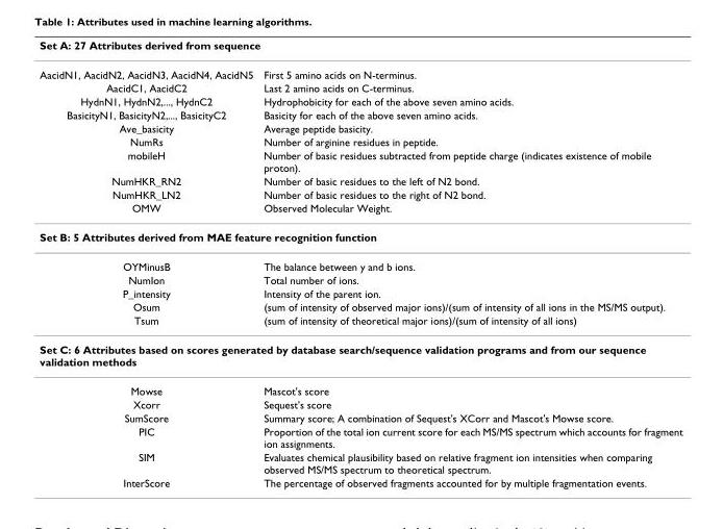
<table><thead><tr><td colspan="2">Set A: 27 Attributes derived from sequence</td></tr><tr><td>AacidN1, AacidN2, AacidN3, AacidN4, AacidN5</td><td>First 5 amino acids on N-terminus.</td></tr></thead><tbody><tr><td>AacidC1, AacidC2</td><td>Last 2 amino acids on C-terminus.</td></tr><tr><td>HydnN1, HydnN2,..., HydnC2</td><td>Hydrophobicity for each of the above seven amino acids.</td></tr><tr><td>BasicityN1, BasicityN2,..., BasicityC2</td><td>Basicity for each of the above seven amino acids.</td></tr><tr><td>Ave_basicity</td><td>Average peptide basicity.</td></tr><tr><td>NumRs</td><td>Number of arginine residues in peptide.</td></tr><tr><td>mobileH</td><td>Number of basic residues subtracted from peptide charge (indicates existence of mobile proton).</td></tr><tr><td>NumHKR_RN2</td><td>Number of basic residues to the left of N2 bond.</td></tr><tr><td>NumHKR_LN2</td><td>Number of basic residues to the right of N2 bond.</td></tr><tr><td>OMW</td><td>Observed Molecular Weight.</td></tr><tr><td colspan="2">Set B: 5 Attributes derived from MAE feature recognition function</td></tr><tr><td>OYMinusB</td><td>The balance between y and b ions.</td></tr><tr><td>NumIon</td><td>Total number of ions.</td></tr><tr><td>P_intensity</td><td>Intensity of the parent ion.</td></tr><tr><td>Osum</td><td>(sum of intensity of observed major ions)/(sum of intensity of all ions in the MS/MS output).</td></tr><tr><td>Tsum</td><td>(sum of intensity of theoretical major ions)/(sum of intensity of all ions)</td></tr><tr><td colspan="2">Set C: 6 Attributes based on scores generated by database search/sequence validation programs and from our sequence validation methods</td></tr><tr><td>Mowse</td><td>Mascot&#x27;s score</td></tr><tr><td>Xcorr</td><td>Sequest&#x27;s score</td></tr><tr><td>SumScore</td><td>Summary score; A combination of Sequest&#x27;s XCorr and Mascot&#x27;s Mowse score.</td></tr><tr><td>PIC</td><td>Proportion of the total ion current score for each MS/MS spectrum which accounts for fragment ion assignments.</td></tr><tr><td>SIM</td><td>Evaluates chemical plausibility based on relative fragment ion intensities when comparing observed MS/MS spectrum to theoretical spectrum.</td></tr><tr><td>InterScore</td><td>The percentage of observed fragments accounted for by multiple fragmentation events.</td></tr></tbody></table>